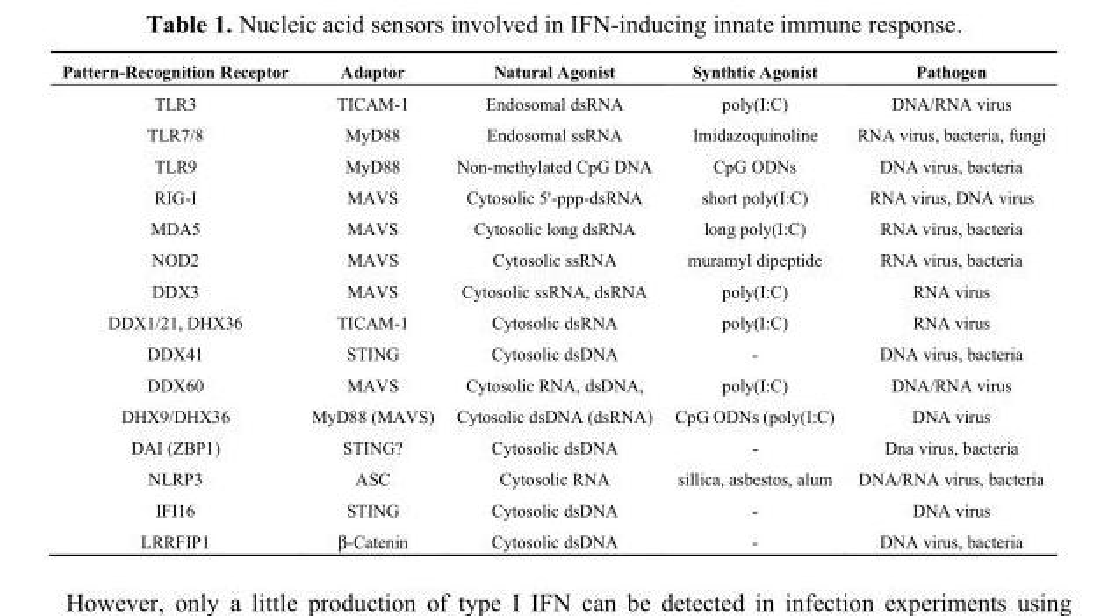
<table><thead><tr><td>Pattern-Recognition Receptor</td><td>Adaptor</td><td>Natural Agonist</td><td>Synthtic Agonist</td><td>Pathogen</td></tr></thead><tbody><tr><td>TLR3</td><td>TICAM-1</td><td>Endosomal dsRNA</td><td>poly(I:C)</td><td>DNA/RNA virus</td></tr><tr><td>TLR7/8</td><td>MyD88</td><td>Endosomal ssRNA</td><td>Imidazoquinoline</td><td>RNA virus, bacteria, fungi</td></tr><tr><td>TLR9</td><td>MyD88</td><td>Non-methylated CpG DNA</td><td>CpG ODNs</td><td>DNA virus, bacteria</td></tr><tr><td>RIG-I</td><td>MAVS</td><td>Cytosolic 5&#x27;-ppp-dsRNA</td><td>short poly(I:C)</td><td>RNA virus, DNA virus</td></tr><tr><td>MDA5</td><td>MAVS</td><td>Cytosolic long dsRNA</td><td>long poly(I:C)</td><td>RNA virus, bacteria</td></tr><tr><td>NOD2</td><td>MAVS</td><td>Cytosolic ssRNA</td><td>muramyl dipeptide</td><td>RNA virus, bacteria</td></tr><tr><td>DDX3</td><td>MAVS</td><td>Cytosolic ssRNA, dsRNA</td><td>poly(I:C)</td><td>RNA virus</td></tr><tr><td>DDX1/21, DHX36</td><td>TICAM-1</td><td>Cytosolic dsRNA</td><td>poly(I:C)</td><td>RNA virus</td></tr><tr><td>DDX41</td><td>STING</td><td>Cytosolic dsDNA</td><td>-</td><td>DNA virus, bacteria</td></tr><tr><td>DDX60</td><td>MAVS</td><td>Cytosolic RNA, dsDNA,</td><td>poly(I:C)</td><td>DNA/RNA virus</td></tr><tr><td>DHX9/DHX36</td><td>MyD88 (MAVS)</td><td>Cytosolic dsDNA (dsRNA)</td><td>CpG ODNs (poly(I:C)</td><td>DNA virus</td></tr><tr><td>DAI (ZBP1)</td><td>STING?</td><td>Cytosolic dsDNA</td><td>-</td><td>Dna virus, bacteria</td></tr><tr><td>NLRP3</td><td>ASC</td><td>Cytosolic RNA</td><td>sillica, asbestos, alum</td><td>DNA/RNA virus, bacteria</td></tr><tr><td>IFI16</td><td>STING</td><td>Cytosolic dsDNA</td><td>-</td><td>DNA virus</td></tr><tr><td>LRRFIP1</td><td>β-Catenin</td><td>Cytosolic dsDNA</td><td>-</td><td>DNA virus, bacteria</td></tr></tbody></table>